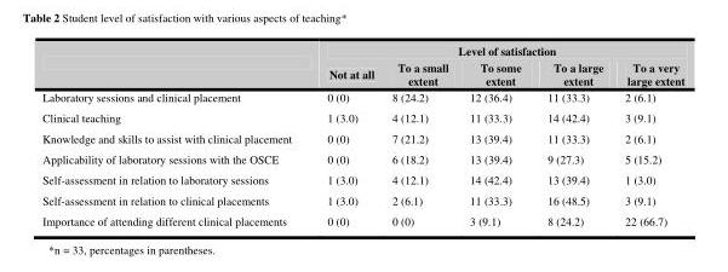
<table><thead><tr><td rowspan="2"></td><td colspan="5">Level of satisfaction</td></tr><tr><td>Not at all</td><td>To a small extent</td><td>To some extent</td><td>To a large extent</td><td>To a very large extent</td></tr></thead><tbody><tr><td>Laboratory sessions and clinical placement</td><td>0 (0)</td><td>8 (24.2)</td><td>12 (36.4)</td><td>11 (33.3)</td><td>2 (6.1)</td></tr><tr><td>Clinical teaching</td><td>1 (3.0)</td><td>4 (12.1)</td><td>11 (33.3)</td><td>14 (42.4)</td><td>3 (9.1)</td></tr><tr><td>Knowledge and skills to assist with clinical placement</td><td>0 (0)</td><td>7 (21.2)</td><td>13 (39.4)</td><td>11 (33.3)</td><td>2 (6.1)</td></tr><tr><td>Applicability of laboratory sessions with the OSCE</td><td>0 (0)</td><td>6 (18.2)</td><td>13 (39.4)</td><td>9 (27.3)</td><td>5 (15.2)</td></tr><tr><td>Self-assessment in relation to laboratory sessions</td><td>1 (3.0)</td><td>4 (12.1)</td><td>14 (42.4)</td><td>13 (39.4)</td><td>1 (3.0)</td></tr><tr><td>Self-assessment in relation to clinical placements</td><td>1 (3.0)</td><td>2 (6.1)</td><td>11 (33.3)</td><td>16 (48.5)</td><td>3 (9.1)</td></tr><tr><td>Importance of attending different clinical placements</td><td>0 (0)</td><td>0 (0)</td><td>3 (9.1)</td><td>8 (24.2)</td><td>22 (66.7)</td></tr></tbody></table>